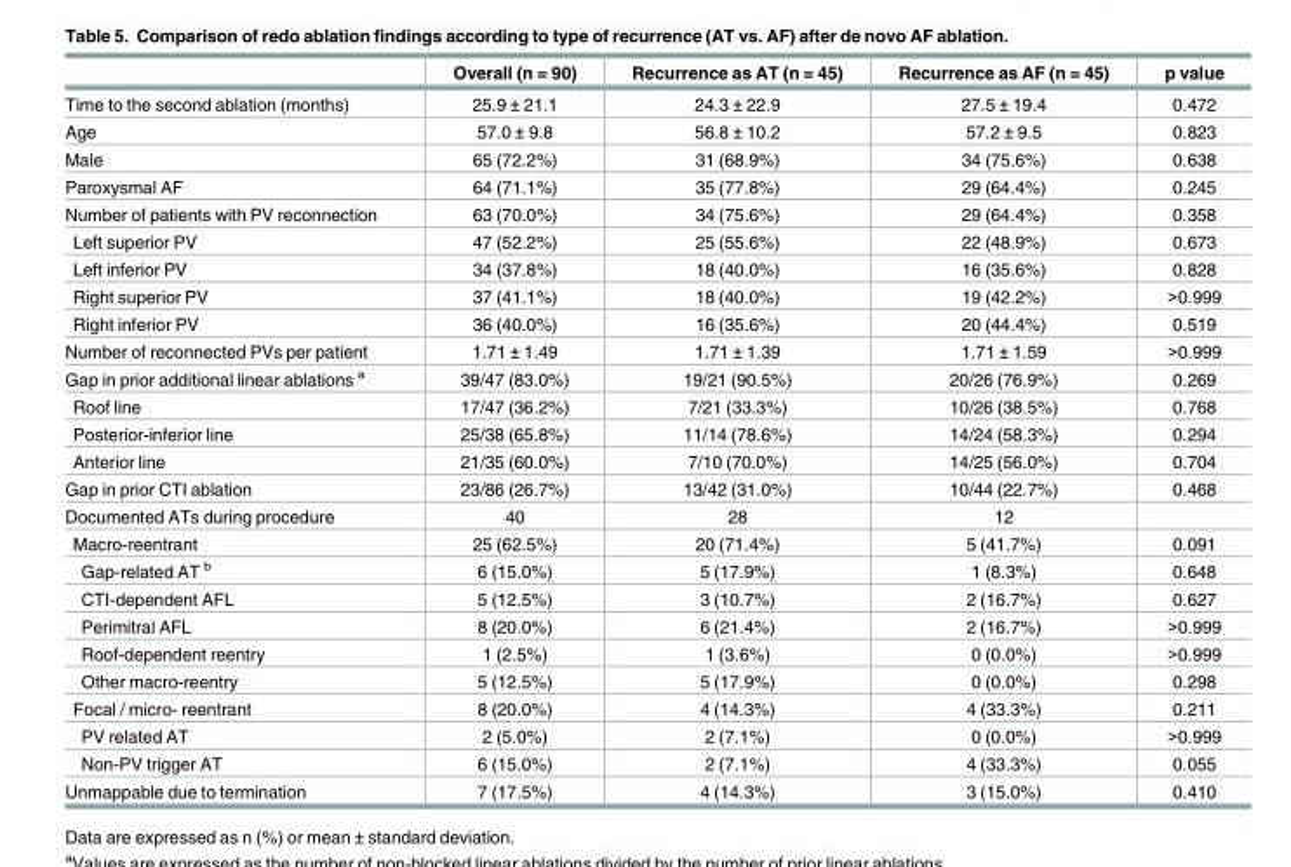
<table><thead><tr><td></td><td>Overall (n = 90)</td><td>Recurrence as AT (n = 45)</td><td>Recurrence as AF (n = 45)</td><td>p value</td></tr></thead><tbody><tr><td>Time to the second ablation (months)</td><td>25.9 ± 21.1</td><td>24.3 ± 22.9</td><td>27.5 ± 19.4</td><td>0.472</td></tr><tr><td>Age</td><td>57.0 ± 9.8</td><td>56.8 ± 10.2</td><td>57.2 ± 9.5</td><td>0.823</td></tr><tr><td>Male</td><td>65 (72.2%)</td><td>31 (68.9%)</td><td>34 (75.6%)</td><td>0.638</td></tr><tr><td>Paroxysmal AF</td><td>64 (71.1%)</td><td>35 (77.8%)</td><td>29 (64.4%)</td><td>0.245</td></tr><tr><td>Number of patients with PV reconnection</td><td>63 (70.0%)</td><td>34 (75.6%)</td><td>29 (64.4%)</td><td>0.358</td></tr><tr><td>Left superior PV</td><td>47 (52.2%)</td><td>25 (55.6%)</td><td>22 (48.9%)</td><td>0.673</td></tr><tr><td>Left inferior PV</td><td>34 (37.8%)</td><td>18 (40.0%)</td><td>16 (35.6%)</td><td>0.828</td></tr><tr><td>Right superior PV</td><td>37 (41.1%)</td><td>18 (40.0%)</td><td>19 (42.2%)</td><td>&gt;0.999</td></tr><tr><td>Right inferior PV</td><td>36 (40.0%)</td><td>16 (35.6%)</td><td>20 (44.4%)</td><td>0.519</td></tr><tr><td>Number of reconnected PVs per patient</td><td>1.71 ± 1.49</td><td>1.71 ± 1.39</td><td>1.71 ± 1.59</td><td>&gt;0.999</td></tr><tr><td>Gap in prior additional linear ablations <sup>a</sup></td><td>39/47 (83.0%)</td><td>19/21 (90.5%)</td><td>20/26 (76.9%)</td><td>0.269</td></tr><tr><td>Roof line</td><td>17/47 (36.2%)</td><td>7/21 (33.3%)</td><td>10/26 (38.5%)</td><td>0.768</td></tr><tr><td>Posterior-inferior line</td><td>25/38 (65.8%)</td><td>11/14 (78.6%)</td><td>14/24 (58.3%)</td><td>0.294</td></tr><tr><td>Anterior line</td><td>21/35 (60.0%)</td><td>7/10 (70.0%)</td><td>14/25 (56.0%)</td><td>0.704</td></tr><tr><td>Gap in prior CTI ablation</td><td>23/86 (26.7%)</td><td>13/42 (31.0%)</td><td>10/44 (22.7%)</td><td>0.468</td></tr><tr><td>Documented ATs during procedure</td><td>40</td><td>28</td><td>12</td><td></td></tr><tr><td>Macro-reentrant</td><td>25 (62.5%)</td><td>20 (71.4%)</td><td>5 (41.7%)</td><td>0.091</td></tr><tr><td>Gap-related AT <sup>b</sup></td><td>6 (15.0%)</td><td>5 (17.9%)</td><td>1 (8.3%)</td><td>0.648</td></tr><tr><td>CTI-dependent AFL</td><td>5 (12.5%)</td><td>3 (10.7%)</td><td>2 (16.7%)</td><td>0.627</td></tr><tr><td>Perimitral AFL</td><td>8 (20.0%)</td><td>6 (21.4%)</td><td>2 (16.7%)</td><td>&gt;0.999</td></tr><tr><td>Roof-dependent reentry</td><td>1 (2.5%)</td><td>1 (3.6%)</td><td>0 (0.0%)</td><td>&gt;0.999</td></tr><tr><td>Other macro-reentry</td><td>5 (12.5%)</td><td>5 (17.9%)</td><td>0 (0.0%)</td><td>0.298</td></tr><tr><td>Focal / micro- reentrant</td><td>8 (20.0%)</td><td>4 (14.3%)</td><td>4 (33.3%)</td><td>0.211</td></tr><tr><td>PV related AT</td><td>2 (5.0%)</td><td>2 (7.1%)</td><td>0 (0.0%)</td><td>&gt;0.999</td></tr><tr><td>Non-PV trigger AT</td><td>6 (15.0%)</td><td>2 (7.1%)</td><td>4 (33.3%)</td><td>0.055</td></tr><tr><td>Unmappable due to termination</td><td>7 (17.5%)</td><td>4 (14.3%)</td><td>3 (15.0%)</td><td>0.410</td></tr></tbody></table>